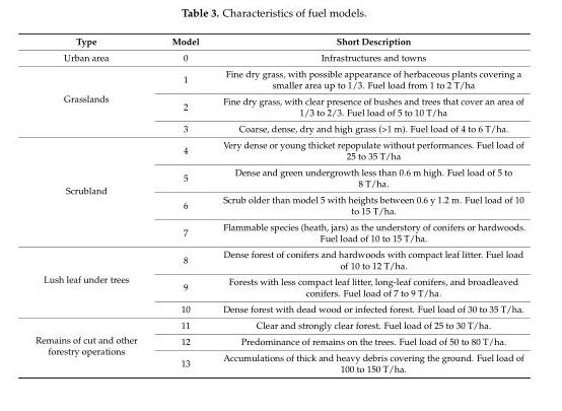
<table><thead><tr><td>Type</td><td>Model</td><td>Short Description</td></tr></thead><tbody><tr><td>Urban area</td><td>0</td><td>Infrastructures and towns</td></tr><tr><td rowspan="3">Grasslands</td><td>1</td><td>Fine dry grass, with possible appearance of herbaceous plants covering a smaller area up to 1/3. Fuel load from 1 to 2 T/ha</td></tr><tr><td>2</td><td>Fine dry grass, with clear presence of bushes and trees that cover an area of 1/3 to 2/3. Fuel load of 5 to 10 T/ha</td></tr><tr><td>3</td><td>Coarse, dense, dry and high grass (&gt;1 m). Fuel load of 4 to 6 T/ha.</td></tr><tr><td rowspan="4">Scrubland</td><td>4</td><td>Very dense or young thicket repopulate without performances. Fuel load of 25 to 35 T/ha</td></tr><tr><td>5</td><td>Dense and green undergrowth less than 0.6 m high. Fuel load of 5 to 8 T/ha.</td></tr><tr><td>6</td><td>Scrub older than model 5 with heights between 0.6 y 1.2 m. Fuel load of 10 to 15 T/ha.</td></tr><tr><td>7</td><td>Flammable species (heath, jars) as the understory of conifers or hardwoods. Fuel load of 10 to 15 T/ha.</td></tr><tr><td rowspan="3">Lush leaf under trees</td><td>8</td><td>Dense forest of conifers and hardwoods with compact leaf litter. Fuel load of 10 to 12 T/ha.</td></tr><tr><td>9</td><td>Forests with less compact leaf litter, long-leaf conifers, and broadleaved conifers. Fuel load of 7 to 9 T/ha.</td></tr><tr><td>10</td><td>Dense forest with dead wood or infected forest. Fuel load of 30 to 35 T/ha.</td></tr><tr><td rowspan="3">Remains of cut and other forestry operations</td><td>11</td><td>Clear and strongly clear forest. Fuel load of 25 to 30 T/ha.</td></tr><tr><td>12</td><td>Predominance of remains on the trees. Fuel load of 50 to 80 T/ha.</td></tr><tr><td>13</td><td>Accumulations of thick and heavy debris covering the ground. Fuel load of 100 to 150 T/ha.</td></tr></tbody></table>